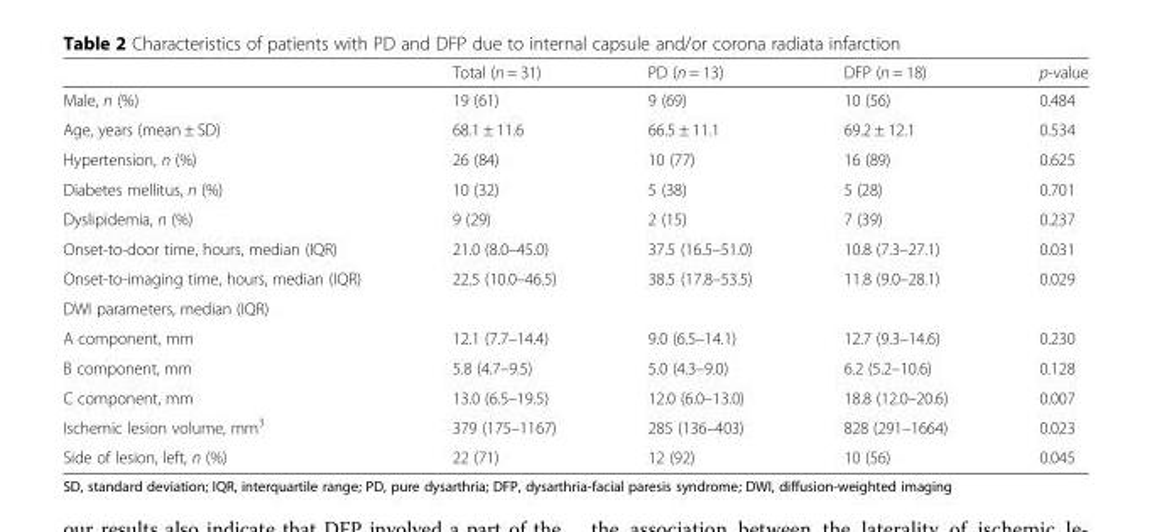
<table><thead><tr><td></td><td>Total (n = 31)</td><td>PD (n = 13)</td><td>DFP (n = 18)</td><td>p-value</td></tr></thead><tbody><tr><td>Male, n (%)</td><td>19 (61)</td><td>9 (69)</td><td>10 (56)</td><td>0.484</td></tr><tr><td>Age, years (mean ± SD)</td><td>68.1 ± 11.6</td><td>66.5 ± 11.1</td><td>69.2 ± 12.1</td><td>0.534</td></tr><tr><td>Hypertension, n (%)</td><td>26 (84)</td><td>10 (77)</td><td>16 (89)</td><td>0.625</td></tr><tr><td>Diabetes mellitus, n (%)</td><td>10 (32)</td><td>5 (38)</td><td>5 (28)</td><td>0.701</td></tr><tr><td>Dyslipidemia, n (%)</td><td>9 (29)</td><td>2 (15)</td><td>7 (39)</td><td>0.237</td></tr><tr><td>Onset-to-door time, hours, median (IQR)</td><td>21.0 (8.0–45.0)</td><td>37.5 (16.5–51.0)</td><td>10.8 (7.3–27.1)</td><td>0.031</td></tr><tr><td>Onset-to-imaging time, hours, median (IQR)</td><td>22.5 (10.0–46.5)</td><td>38.5 (17.8–53.5)</td><td>11.8 (9.0–28.1)</td><td>0.029</td></tr><tr><td colspan="5">DWI parameters, median (IQR)</td></tr><tr><td>A component, mm</td><td>12.1 (7.7–14.4)</td><td>9.0 (6.5–14.1)</td><td>12.7 (9.3–14.6)</td><td>0.230</td></tr><tr><td>B component, mm</td><td>5.8 (4.7–9.5)</td><td>5.0 (4.3–9.0)</td><td>6.2 (5.2–10.6)</td><td>0.128</td></tr><tr><td>C component, mm</td><td>13.0 (6.5–19.5)</td><td>12.0 (6.0–13.0)</td><td>18.8 (12.0–20.6)</td><td>0.007</td></tr><tr><td>Ischemic lesion volume, mm<sup>3</sup></td><td>379 (175–1167)</td><td>285 (136–403)</td><td>828 (291–1664)</td><td>0.023</td></tr><tr><td>Side of lesion, left, n (%)</td><td>22 (71)</td><td>12 (92)</td><td>10 (56)</td><td>0.045</td></tr></tbody></table>